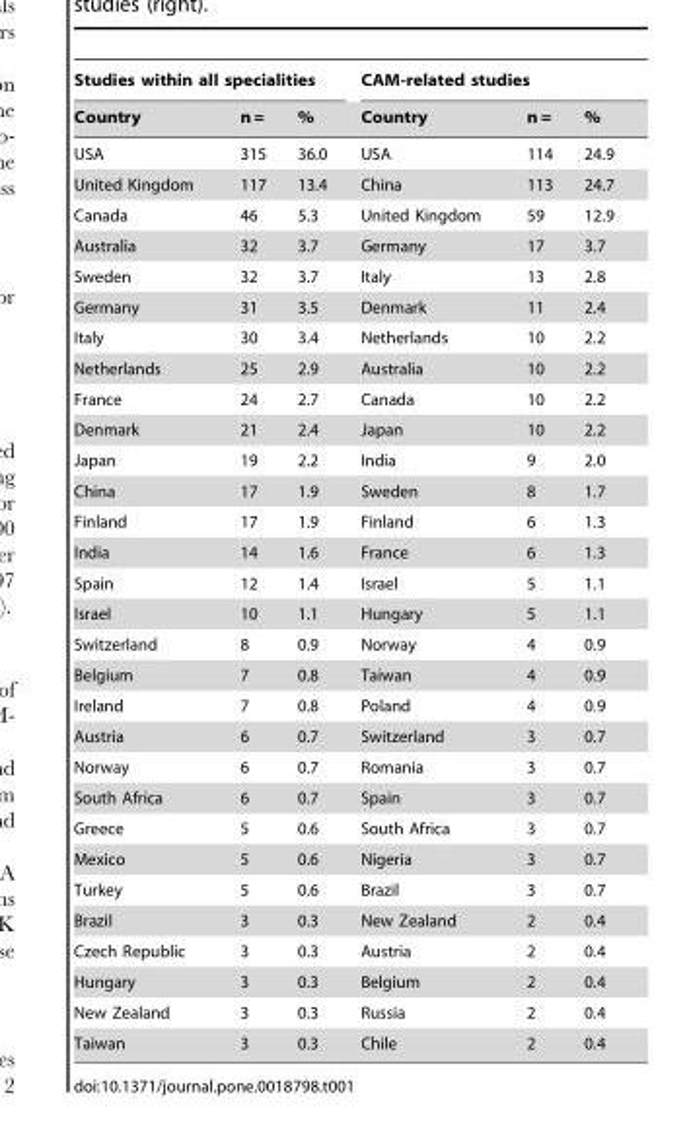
<table><thead><tr><td colspan="3">Studies within all specialities</td><td colspan="3">CAM-related studies</td></tr><tr><td>Country</td><td>n =</td><td>%</td><td>Country</td><td>n =</td><td>%</td></tr></thead><tbody><tr><td>USA</td><td>315</td><td>36.0</td><td>USA</td><td>114</td><td>24.9</td></tr><tr><td>United Kingdom</td><td>117</td><td>13.4</td><td>China</td><td>113</td><td>24.7</td></tr><tr><td>Canada</td><td>46</td><td>5.3</td><td>United Kingdom</td><td>59</td><td>12.9</td></tr><tr><td>Australia</td><td>32</td><td>3.7</td><td>Germany</td><td>17</td><td>3.7</td></tr><tr><td>Sweden</td><td>32</td><td>3.7</td><td>Italy</td><td>13</td><td>2.8</td></tr><tr><td>Germany</td><td>31</td><td>3.5</td><td>Denmark</td><td>11</td><td>2.4</td></tr><tr><td>Italy</td><td>30</td><td>3.4</td><td>Netherlands</td><td>10</td><td>2.2</td></tr><tr><td>Netherlands</td><td>25</td><td>2.9</td><td>Australia</td><td>10</td><td>2.2</td></tr><tr><td>France</td><td>24</td><td>2.7</td><td>Canada</td><td>10</td><td>2.2</td></tr><tr><td>Denmark</td><td>21</td><td>2.4</td><td>Japan</td><td>10</td><td>2.2</td></tr><tr><td>Japan</td><td>19</td><td>2.2</td><td>India</td><td>9</td><td>2.0</td></tr><tr><td>China</td><td>17</td><td>1.9</td><td>Sweden</td><td>8</td><td>1.7</td></tr><tr><td>Finland</td><td>17</td><td>1.9</td><td>Finland</td><td>6</td><td>1.3</td></tr><tr><td>India</td><td>14</td><td>1.6</td><td>France</td><td>6</td><td>1.3</td></tr><tr><td>Spain</td><td>12</td><td>1.4</td><td>Israel</td><td>5</td><td>1.1</td></tr><tr><td>Israel</td><td>10</td><td>1.1</td><td>Hungary</td><td>5</td><td>1.1</td></tr><tr><td>Switzerland</td><td>8</td><td>0.9</td><td>Norway</td><td>4</td><td>0.9</td></tr><tr><td>Belgium</td><td>7</td><td>0.8</td><td>Taiwan</td><td>4</td><td>0.9</td></tr><tr><td>Ireland</td><td>7</td><td>0.8</td><td>Poland</td><td>4</td><td>0.9</td></tr><tr><td>Austria</td><td>6</td><td>0.7</td><td>Switzerland</td><td>3</td><td>0.7</td></tr><tr><td>Norway</td><td>6</td><td>0.7</td><td>Romania</td><td>3</td><td>0.7</td></tr><tr><td>South Africa</td><td>6</td><td>0.7</td><td>Spain</td><td>3</td><td>0.7</td></tr><tr><td>Greece</td><td>5</td><td>0.6</td><td>South Africa</td><td>3</td><td>0.7</td></tr><tr><td>Mexico</td><td>5</td><td>0.6</td><td>Nigeria</td><td>3</td><td>0.7</td></tr><tr><td>Turkey</td><td>5</td><td>0.6</td><td>Brazil</td><td>3</td><td>0.7</td></tr><tr><td>Brazil</td><td>3</td><td>0.3</td><td>New Zealand</td><td>2</td><td>0.4</td></tr><tr><td>Czech Republic</td><td>3</td><td>0.3</td><td>Austria</td><td>2</td><td>0.4</td></tr><tr><td>Hungary</td><td>3</td><td>0.3</td><td>Belgium</td><td>2</td><td>0.4</td></tr><tr><td>New Zealand</td><td>3</td><td>0.3</td><td>Russia</td><td>2</td><td>0.4</td></tr><tr><td>Taiwan</td><td>3</td><td>0.3</td><td>Chile</td><td>2</td><td>0.4</td></tr></tbody></table>